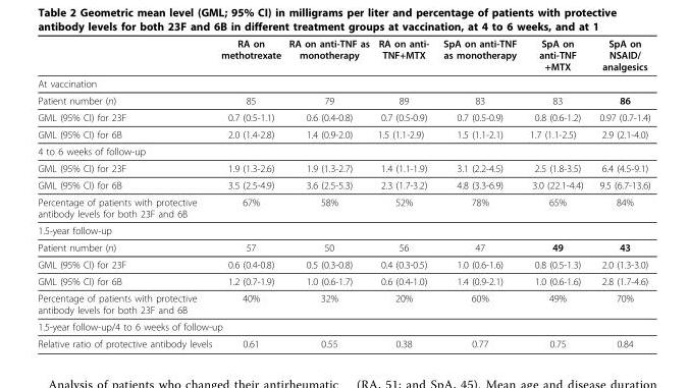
<table><thead><tr><td></td><td>RA on methotrexate</td><td>RA on anti-TNF as monotherapy</td><td>RA on anti- TNF+MTX</td><td>SpA on anti-TNF as monotherapy</td><td>SpA on anti-TNF +MTX</td><td>SpA on NSAID/ analgesics</td></tr></thead><tbody><tr><td colspan="7">At vaccination</td></tr><tr><td>Patient number (n)</td><td>85</td><td>79</td><td>89</td><td>83</td><td>83</td><td>86</td></tr><tr><td>GML (95% CI) for 23F</td><td>0.7 (0.5-1.1)</td><td>0.6 (0.4-0.8)</td><td>0.7 (0.5-0.9)</td><td>0.7 (0.5-0.9)</td><td>0.8 (0.6-1.2)</td><td>0.97 (0.7-1.4)</td></tr><tr><td>GML (95% CI) for 6B</td><td>2.0 (1.4-2.8)</td><td>1.4 (0.9-2.0)</td><td>1.5 (1.1-2.9)</td><td>1.5 (1.1-2.1)</td><td>1.7 (1.1-2.5)</td><td>2.9 (2.1-4.0)</td></tr><tr><td colspan="7">4 to 6 weeks of follow-up</td></tr><tr><td>GML (95% CI) for 23F</td><td>1.9 (1.3-2.6)</td><td>1.9 (1.3-2.7)</td><td>1.4 (1.1-1.9)</td><td>3.1 (2.2-4.5)</td><td>2.5 (1.8-3.5)</td><td>6.4 (4.5-9.1)</td></tr><tr><td>GML (95% CI) for 6B</td><td>3.5 (2.5-4.9)</td><td>3.6 (2.5-5.3)</td><td>2.3 (1.7-3.2)</td><td>4.8 (3.3-6.9)</td><td>3.0 (22.1-4.4)</td><td>9.5 (6.7-13.6)</td></tr><tr><td>Percentage of patients with protective antibody levels for both 23F and 6B</td><td>67%</td><td>58%</td><td>52%</td><td>78%</td><td>65%</td><td>84%</td></tr><tr><td colspan="7">1.5-year follow-up</td></tr><tr><td>Patient number (n)</td><td>57</td><td>50</td><td>56</td><td>47</td><td>49</td><td>43</td></tr><tr><td>GML (95% CI) for 23F</td><td>0.6 (0.4-0.8)</td><td>0.5 (0.3-0.8)</td><td>0.4 (0.3-0.5)</td><td>1.0 (0.6-1.6)</td><td>0.8 (0.5-1.3)</td><td>2.0 (1.3-3.0)</td></tr><tr><td>GML (95% CI) for 6B</td><td>1.2 (0.7-1.9)</td><td>1.0 (0.6-1.7)</td><td>0.6 (0.4-1.0)</td><td>1.4 (0.9-2.1)</td><td>1.0 (0.6-1.6)</td><td>2.8 (1.7-4.6)</td></tr><tr><td>Percentage of patients with protective antibody levels for both 23F and 6B</td><td>40%</td><td>32%</td><td>20%</td><td>60%</td><td>49%</td><td>70%</td></tr><tr><td colspan="7">1.5-year follow-up/4 to 6 weeks of follow-up</td></tr><tr><td>Relative ratio of protective antibody levels</td><td>0.61</td><td>0.55</td><td>0.38</td><td>0.77</td><td>0.75</td><td>0.84</td></tr></tbody></table>